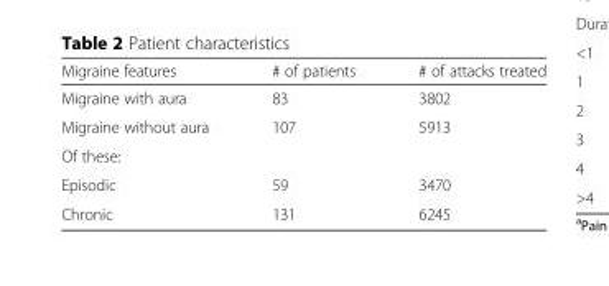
<table><thead><tr><td>Migraine features</td><td># of patients</td><td># of attacks treated</td></tr></thead><tbody><tr><td>Migraine with aura</td><td>83</td><td>3802</td></tr><tr><td>Migraine without aura</td><td>107</td><td>5913</td></tr><tr><td colspan="3">Of these:</td></tr><tr><td>Episodic</td><td>59</td><td>3470</td></tr><tr><td>Chronic</td><td>131</td><td>6245</td></tr></tbody></table>